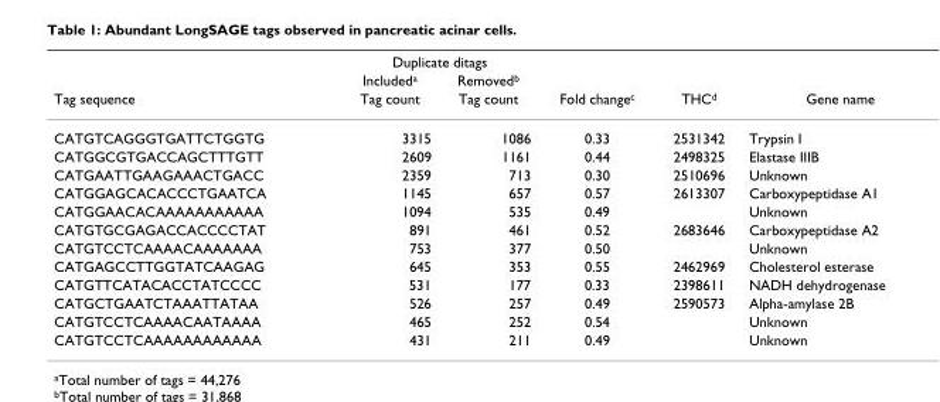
<table><thead><tr><td rowspan="3">Tag sequence</td><td colspan="2">Duplicate ditags</td><td rowspan="3">Fold change<sup>c</sup></td><td rowspan="3">THC<sup>d</sup></td><td rowspan="3">Gene name</td></tr><tr><td rowspan="2">Included<sup>a</sup> Tag count</td><td rowspan="2">Removed<sup>b</sup> Tag count</td></tr><tr></tr></thead><tbody><tr><td>CATGTCAGGGTGATTCTGGTG</td><td>3315</td><td>1086</td><td>0.33</td><td>2531342</td><td>Trypsin I</td></tr><tr><td>CATGGCGTGACCAGCTTTGTT</td><td>2609</td><td>1161</td><td>0.44</td><td>2498325</td><td>Elastase IIIB</td></tr><tr><td>CATGAATTGAAGAAACTGACC</td><td>2359</td><td>713</td><td>0.30</td><td>2510696</td><td>Unknown</td></tr><tr><td>CATGGAGCACACCCTGAATCA</td><td>1145</td><td>657</td><td>0.57</td><td>2613307</td><td>Carboxypeptidase A1</td></tr><tr><td>CATGGAACACAAAAAAAAAAA</td><td>1094</td><td>535</td><td>0.49</td><td></td><td>Unknown</td></tr><tr><td>CATGTGCGAGACCACCCCTAT</td><td>891</td><td>461</td><td>0.52</td><td>2683646</td><td>Carboxypeptidase A2</td></tr><tr><td>CATGTCCTCAAAACAAAAAAA</td><td>753</td><td>377</td><td>0.50</td><td></td><td>Unknown</td></tr><tr><td>CATGAGCCTTGGTATCAAGAG</td><td>645</td><td>353</td><td>0.55</td><td>2462969</td><td>Cholesterol esterase</td></tr><tr><td>CATGTTCATACACCTATCCCC</td><td>531</td><td>177</td><td>0.33</td><td>2398611</td><td>NADH dehydrogenase</td></tr><tr><td>CATGCTGAATCTAAATTATAA</td><td>526</td><td>257</td><td>0.49</td><td>2590573</td><td>Alpha-amylase 2B</td></tr><tr><td>CATGTCCTCAAAACAATAAAA</td><td>465</td><td>252</td><td>0.54</td><td></td><td>Unknown</td></tr><tr><td>CATGTCCTCAAAAAAAAAAAA</td><td>431</td><td>211</td><td>0.49</td><td></td><td>Unknown</td></tr></tbody></table>